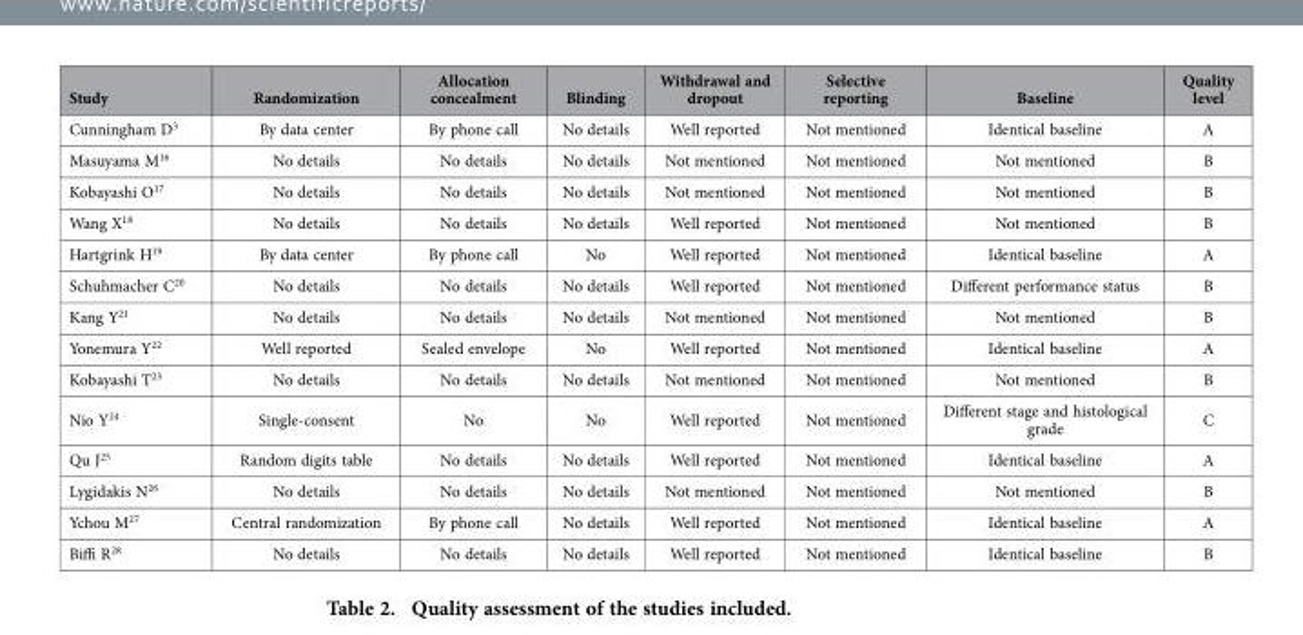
<table><thead><tr><td>Study</td><td>Randomization</td><td>Allocation concealment</td><td>Blinding</td><td>Withdrawal and dropout</td><td>Selective reporting</td><td>Baseline</td><td>Quality level</td></tr></thead><tbody><tr><td>Cunningham D<sup>3</sup></td><td>By data center</td><td>By phone call</td><td>No details</td><td>Well reported</td><td>Not mentioned</td><td>Identical baseline</td><td>A</td></tr><tr><td>Masuyama M<sup>16</sup></td><td>No details</td><td>No details</td><td>No details</td><td>Not mentioned</td><td>Not mentioned</td><td>Not mentioned</td><td>B</td></tr><tr><td>Kobayashi O<sup>17</sup></td><td>No details</td><td>No details</td><td>No details</td><td>Not mentioned</td><td>Not mentioned</td><td>Not mentioned</td><td>B</td></tr><tr><td>Wang X<sup>18</sup></td><td>No details</td><td>No details</td><td>No details</td><td>Well reported</td><td>Not mentioned</td><td>Not mentioned</td><td>B</td></tr><tr><td>Hartgrink H<sup>19</sup></td><td>By data center</td><td>By phone call</td><td>No</td><td>Well reported</td><td>Not mentioned</td><td>Identical baseline</td><td>A</td></tr><tr><td>Schuhmacher C<sup>20</sup></td><td>No details</td><td>No details</td><td>No details</td><td>Well reported</td><td>Not mentioned</td><td>Different performance status</td><td>B</td></tr><tr><td>Kang Y<sup>21</sup></td><td>No details</td><td>No details</td><td>No details</td><td>Not mentioned</td><td>Not mentioned</td><td>Not mentioned</td><td>B</td></tr><tr><td>Yonemura Y<sup>22</sup></td><td>Well reported</td><td>Sealed envelope</td><td>No</td><td>Well reported</td><td>Not mentioned</td><td>Identical baseline</td><td>A</td></tr><tr><td>Kobayashi T<sup>23</sup></td><td>No details</td><td>No details</td><td>No details</td><td>Not mentioned</td><td>Not mentioned</td><td>Not mentioned</td><td>B</td></tr><tr><td>Nio Y<sup>24</sup></td><td>Single-consent</td><td>No</td><td>No</td><td>Well reported</td><td>Not mentioned</td><td>Different stage and histological grade</td><td>C</td></tr><tr><td>Qu J<sup>25</sup></td><td>Random digits table</td><td>No details</td><td>No details</td><td>Well reported</td><td>Not mentioned</td><td>Identical baseline</td><td>A</td></tr><tr><td>Lygidakis N<sup>26</sup></td><td>No details</td><td>No details</td><td>No details</td><td>Not mentioned</td><td>Not mentioned</td><td>Not mentioned</td><td>B</td></tr><tr><td>Ychou M<sup>27</sup></td><td>Central randomization</td><td>By phone call</td><td>No details</td><td>Well reported</td><td>Not mentioned</td><td>Identical baseline</td><td>A</td></tr><tr><td>Biffi R<sup>28</sup></td><td>No details</td><td>No details</td><td>No details</td><td>Well reported</td><td>Not mentioned</td><td>Identical baseline</td><td>B</td></tr></tbody></table>